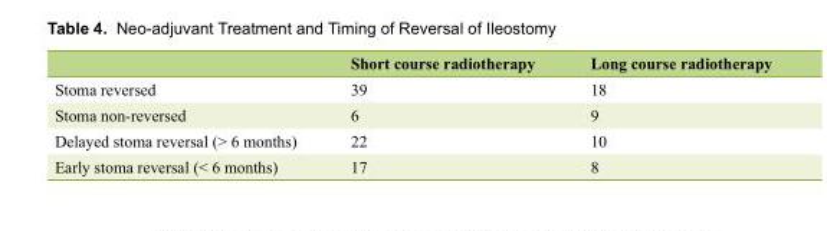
<table><thead><tr><td></td><td>Short course radiotherapy</td><td>Long course radiotherapy</td></tr></thead><tbody><tr><td>Stoma reversed</td><td>39</td><td>18</td></tr><tr><td>Stoma non-reversed</td><td>6</td><td>9</td></tr><tr><td>Delayed stoma reversal (&gt; 6 months)</td><td>22</td><td>10</td></tr><tr><td>Early stoma reversal (&lt; 6 months)</td><td>17</td><td>8</td></tr></tbody></table>